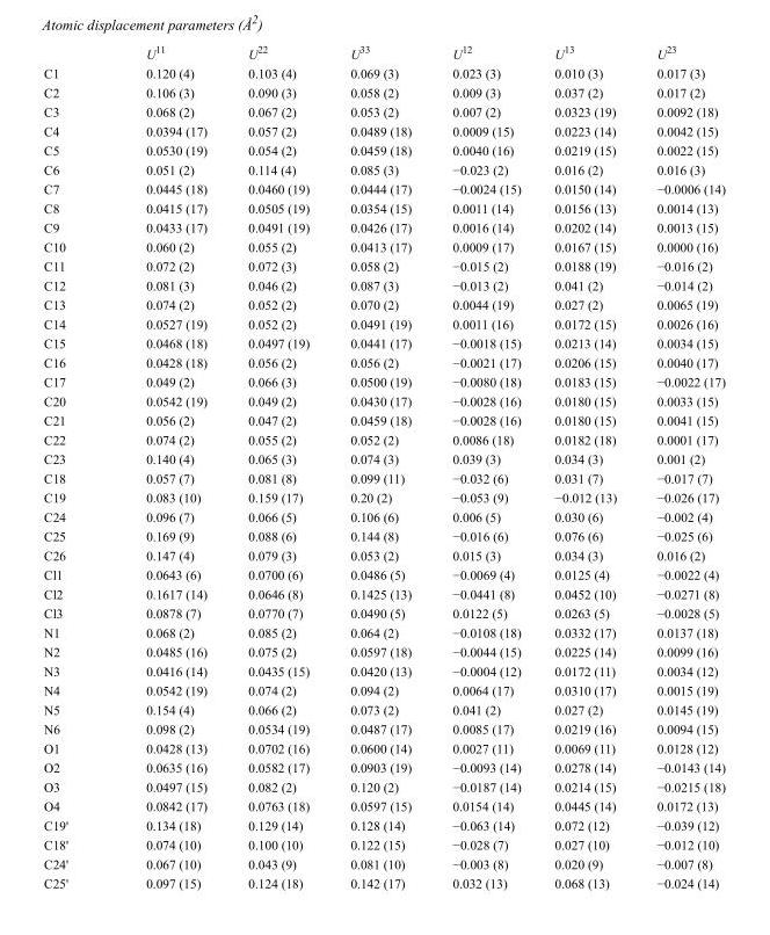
<table><thead><tr><td></td><td>U<sup>11</sup></td><td>U<sup>22</sup></td><td>U<sup>33</sup></td><td>U<sup>12</sup></td><td>U<sup>13</sup></td><td>U<sup>23</sup></td></tr></thead><tbody><tr><td>C1</td><td>0.120 (4)</td><td>0.103 (4)</td><td>0.069 (3)</td><td>0.023 (3)</td><td>0.010 (3)</td><td>0.017 (3)</td></tr><tr><td>C2</td><td>0.106 (3)</td><td>0.090 (3)</td><td>0.058 (2)</td><td>0.009 (3)</td><td>0.037 (2)</td><td>0.017 (2)</td></tr><tr><td>C3</td><td>0.068 (2)</td><td>0.067 (2)</td><td>0.053 (2)</td><td>0.007 (2)</td><td>0.0323 (19)</td><td>0.0092 (18)</td></tr><tr><td>C4</td><td>0.0394 (17)</td><td>0.057 (2)</td><td>0.0489 (18)</td><td>0.0009 (15)</td><td>0.0223 (14)</td><td>0.0042 (15)</td></tr><tr><td>C5</td><td>0.0530 (19)</td><td>0.054 (2)</td><td>0.0459 (18)</td><td>0.0040 (16)</td><td>0.0219 (15)</td><td>0.0022 (15)</td></tr><tr><td>C6</td><td>0.051 (2)</td><td>0.114 (4)</td><td>0.085 (3)</td><td>−0.023 (2)</td><td>0.016 (2)</td><td>0.016 (3)</td></tr><tr><td>C7</td><td>0.0445 (18)</td><td>0.0460 (19)</td><td>0.0444 (17)</td><td>−0.0024 (15)</td><td>0.0150 (14)</td><td>−0.0006 (14)</td></tr><tr><td>C8</td><td>0.0415 (17)</td><td>0.0505 (19)</td><td>0.0354 (15)</td><td>0.0011 (14)</td><td>0.0156 (13)</td><td>0.0014 (13)</td></tr><tr><td>C9</td><td>0.0433 (17)</td><td>0.0491 (19)</td><td>0.0426 (17)</td><td>0.0016 (14)</td><td>0.0202 (14)</td><td>0.0013 (15)</td></tr><tr><td>C10</td><td>0.060 (2)</td><td>0.055 (2)</td><td>0.0413 (17)</td><td>0.0009 (17)</td><td>0.0167 (15)</td><td>0.0000 (16)</td></tr><tr><td>C11</td><td>0.072 (2)</td><td>0.072 (3)</td><td>0.058 (2)</td><td>−0.015 (2)</td><td>0.0188 (19)</td><td>−0.016 (2)</td></tr><tr><td>C12</td><td>0.081 (3)</td><td>0.046 (2)</td><td>0.087 (3)</td><td>−0.013 (2)</td><td>0.041 (2)</td><td>−0.014 (2)</td></tr><tr><td>C13</td><td>0.074 (2)</td><td>0.052 (2)</td><td>0.070 (2)</td><td>0.0044 (19)</td><td>0.027 (2)</td><td>0.0065 (19)</td></tr><tr><td>C14</td><td>0.0527 (19)</td><td>0.052 (2)</td><td>0.0491 (19)</td><td>0.0011 (16)</td><td>0.0172 (15)</td><td>0.0026 (16)</td></tr><tr><td>C15</td><td>0.0468 (18)</td><td>0.0497 (19)</td><td>0.0441 (17)</td><td>−0.0018 (15)</td><td>0.0213 (14)</td><td>0.0034 (15)</td></tr><tr><td>C16</td><td>0.0428 (18)</td><td>0.056 (2)</td><td>0.056 (2)</td><td>−0.0021 (17)</td><td>0.0206 (15)</td><td>0.0040 (17)</td></tr><tr><td>C17</td><td>0.049 (2)</td><td>0.066 (3)</td><td>0.0500 (19)</td><td>−0.0080 (18)</td><td>0.0183 (15)</td><td>−0.0022 (17)</td></tr><tr><td>C20</td><td>0.0542 (19)</td><td>0.049 (2)</td><td>0.0430 (17)</td><td>−0.0028 (16)</td><td>0.0180 (15)</td><td>0.0033 (15)</td></tr><tr><td>C21</td><td>0.056 (2)</td><td>0.047 (2)</td><td>0.0459 (18)</td><td>−0.0028 (16)</td><td>0.0180 (15)</td><td>0.0041 (15)</td></tr><tr><td>C22</td><td>0.074 (2)</td><td>0.055 (2)</td><td>0.052 (2)</td><td>0.0086 (18)</td><td>0.0182 (18)</td><td>0.0001 (17)</td></tr><tr><td>C23</td><td>0.140 (4)</td><td>0.065 (3)</td><td>0.074 (3)</td><td>0.039 (3)</td><td>0.034 (3)</td><td>0.001 (2)</td></tr><tr><td>C18</td><td>0.057 (7)</td><td>0.081 (8)</td><td>0.099 (11)</td><td>−0.032 (6)</td><td>0.031 (7)</td><td>−0.017 (7)</td></tr><tr><td>C19</td><td>0.083 (10)</td><td>0.159 (17)</td><td>0.20 (2)</td><td>−0.053 (9)</td><td>−0.012 (13)</td><td>−0.026 (17)</td></tr><tr><td>C24</td><td>0.096 (7)</td><td>0.066 (5)</td><td>0.106 (6)</td><td>0.006 (5)</td><td>0.030 (6)</td><td>−0.002 (4)</td></tr><tr><td>C25</td><td>0.169 (9)</td><td>0.088 (6)</td><td>0.144 (8)</td><td>−0.016 (6)</td><td>0.076 (6)</td><td>−0.025 (6)</td></tr><tr><td>C26</td><td>0.147 (4)</td><td>0.079 (3)</td><td>0.053 (2)</td><td>0.015 (3)</td><td>0.034 (3)</td><td>0.016 (2)</td></tr><tr><td>Cl1</td><td>0.0643 (6)</td><td>0.0700 (6)</td><td>0.0486 (5)</td><td>−0.0069 (4)</td><td>0.0125 (4)</td><td>−0.0022 (4)</td></tr><tr><td>Cl2</td><td>0.1617 (14)</td><td>0.0646 (8)</td><td>0.1425 (13)</td><td>−0.0441 (8)</td><td>0.0452 (10)</td><td>−0.0271 (8)</td></tr><tr><td>Cl3</td><td>0.0878 (7)</td><td>0.0770 (7)</td><td>0.0490 (5)</td><td>0.0122 (5)</td><td>0.0263 (5)</td><td>−0.0028 (5)</td></tr><tr><td>N1</td><td>0.068 (2)</td><td>0.085 (2)</td><td>0.064 (2)</td><td>−0.0108 (18)</td><td>0.0332 (17)</td><td>0.0137 (18)</td></tr><tr><td>N2</td><td>0.0485 (16)</td><td>0.075 (2)</td><td>0.0597 (18)</td><td>−0.0044 (15)</td><td>0.0225 (14)</td><td>0.0099 (16)</td></tr><tr><td>N3</td><td>0.0416 (14)</td><td>0.0435 (15)</td><td>0.0420 (13)</td><td>−0.0004 (12)</td><td>0.0172 (11)</td><td>0.0034 (12)</td></tr><tr><td>N4</td><td>0.0542 (19)</td><td>0.074 (2)</td><td>0.094 (2)</td><td>0.0064 (17)</td><td>0.0310 (17)</td><td>0.0015 (19)</td></tr><tr><td>N5</td><td>0.154 (4)</td><td>0.066 (2)</td><td>0.073 (2)</td><td>0.041 (2)</td><td>0.027 (2)</td><td>0.0145 (19)</td></tr><tr><td>N6</td><td>0.098 (2)</td><td>0.0534 (19)</td><td>0.0487 (17)</td><td>0.0085 (17)</td><td>0.0219 (16)</td><td>0.0094 (15)</td></tr><tr><td>O1</td><td>0.0428 (13)</td><td>0.0702 (16)</td><td>0.0600 (14)</td><td>0.0027 (11)</td><td>0.0069 (11)</td><td>0.0128 (12)</td></tr><tr><td>O2</td><td>0.0635 (16)</td><td>0.0582 (17)</td><td>0.0903 (19)</td><td>−0.0093 (14)</td><td>0.0278 (14)</td><td>−0.0143 (14)</td></tr><tr><td>O3</td><td>0.0497 (15)</td><td>0.082 (2)</td><td>0.120 (2)</td><td>−0.0187 (14)</td><td>0.0214 (15)</td><td>−0.0215 (18)</td></tr><tr><td>O4</td><td>0.0842 (17)</td><td>0.0763 (18)</td><td>0.0597 (15)</td><td>0.0154 (14)</td><td>0.0445 (14)</td><td>0.0172 (13)</td></tr><tr><td>C19&#x27;</td><td>0.134 (18)</td><td>0.129 (14)</td><td>0.128 (14)</td><td>−0.063 (14)</td><td>0.072 (12)</td><td>−0.039 (12)</td></tr><tr><td>C18&#x27;</td><td>0.074 (10)</td><td>0.100 (10)</td><td>0.122 (15)</td><td>−0.028 (7)</td><td>0.027 (10)</td><td>−0.012 (10)</td></tr><tr><td>C24&#x27;</td><td>0.067 (10)</td><td>0.043 (9)</td><td>0.081 (10)</td><td>−0.003 (8)</td><td>0.020 (9)</td><td>−0.007 (8)</td></tr><tr><td>C25&#x27;</td><td>0.097 (15)</td><td>0.124 (18)</td><td>0.142 (17)</td><td>0.032 (13)</td><td>0.068 (13)</td><td>−0.024 (14)</td></tr></tbody></table>